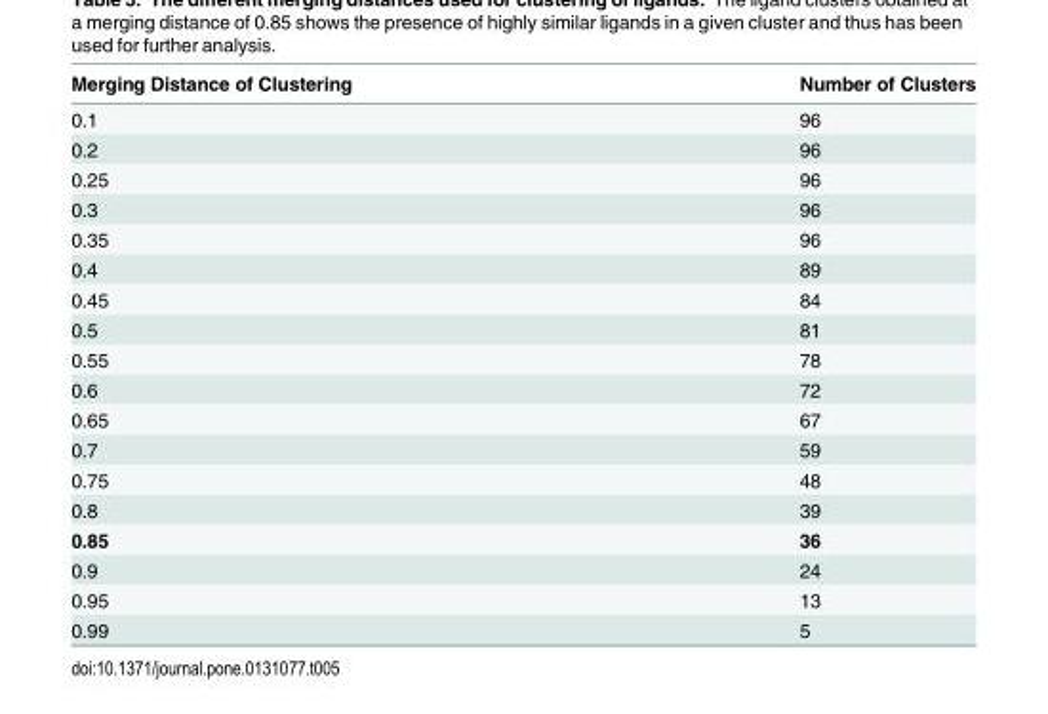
<table><thead><tr><td>Merging Distance of Clustering</td><td>Number of Clusters</td></tr></thead><tbody><tr><td>0.1</td><td>96</td></tr><tr><td>0.2</td><td>96</td></tr><tr><td>0.25</td><td>96</td></tr><tr><td>0.3</td><td>96</td></tr><tr><td>0.35</td><td>96</td></tr><tr><td>0.4</td><td>89</td></tr><tr><td>0.45</td><td>84</td></tr><tr><td>0.5</td><td>81</td></tr><tr><td>0.55</td><td>78</td></tr><tr><td>0.6</td><td>72</td></tr><tr><td>0.65</td><td>67</td></tr><tr><td>0.7</td><td>59</td></tr><tr><td>0.75</td><td>48</td></tr><tr><td>0.8</td><td>39</td></tr><tr><td>0.85</td><td>36</td></tr><tr><td>0.9</td><td>24</td></tr><tr><td>0.95</td><td>13</td></tr><tr><td>0.99</td><td>5</td></tr></tbody></table>